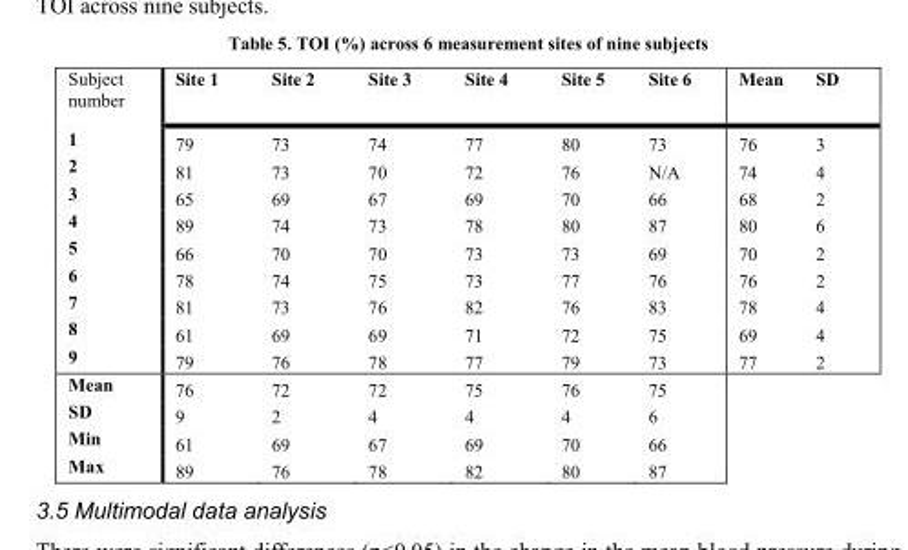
<table><thead><tr><td>Subject number</td><td>Site 1</td><td>Site 2</td><td>Site 3</td><td>Site 4</td><td>Site 5</td><td>Site 6</td><td>Mean</td><td>SD</td></tr></thead><tbody><tr><td>1</td><td>79</td><td>73</td><td>74</td><td>77</td><td>80</td><td>73</td><td>76</td><td>3</td></tr><tr><td>2</td><td>81</td><td>73</td><td>70</td><td>72</td><td>76</td><td>N/A</td><td>74</td><td>4</td></tr><tr><td>3</td><td>65</td><td>69</td><td>67</td><td>69</td><td>70</td><td>66</td><td>68</td><td>2</td></tr><tr><td>4</td><td>89</td><td>74</td><td>73</td><td>78</td><td>80</td><td>87</td><td>80</td><td>6</td></tr><tr><td>5</td><td>66</td><td>70</td><td>70</td><td>73</td><td>73</td><td>69</td><td>70</td><td>2</td></tr><tr><td>6</td><td>78</td><td>74</td><td>75</td><td>73</td><td>77</td><td>76</td><td>76</td><td>2</td></tr><tr><td>7</td><td>81</td><td>73</td><td>76</td><td>82</td><td>76</td><td>83</td><td>78</td><td>4</td></tr><tr><td>8</td><td>61</td><td>69</td><td>69</td><td>71</td><td>72</td><td>75</td><td>69</td><td>4</td></tr><tr><td>9</td><td>79</td><td>76</td><td>78</td><td>77</td><td>79</td><td>73</td><td>77</td><td>2</td></tr><tr><td>Mean</td><td>76</td><td>72</td><td>72</td><td>75</td><td>76</td><td>75</td><td></td><td></td></tr><tr><td>SD</td><td>9</td><td>2</td><td>4</td><td>4</td><td>4</td><td>6</td><td></td><td></td></tr><tr><td>Min</td><td>61</td><td>69</td><td>67</td><td>69</td><td>70</td><td>66</td><td></td><td></td></tr><tr><td>Max</td><td>89</td><td>76</td><td>78</td><td>82</td><td>80</td><td>87</td><td></td><td></td></tr></tbody></table>